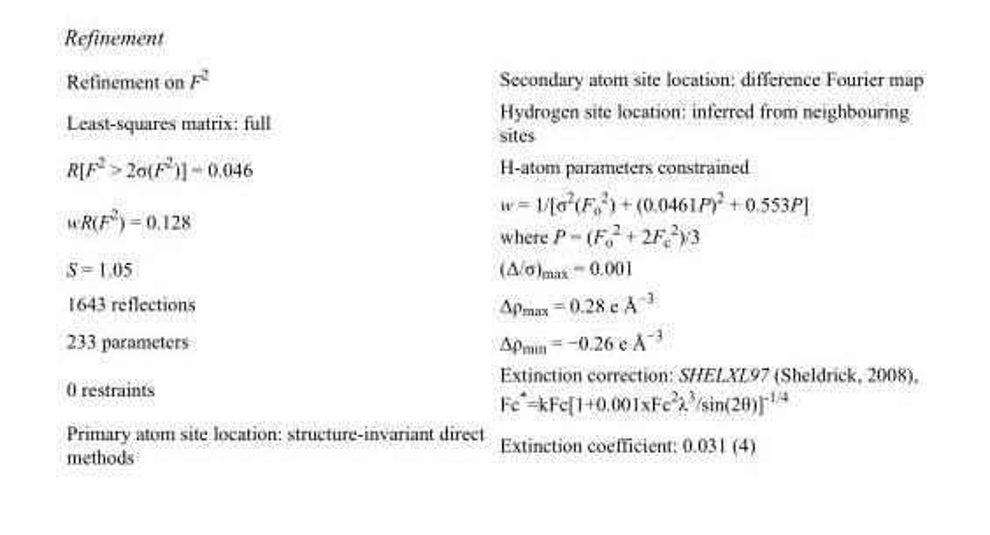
<table><tbody><tr><td>Refinement on F<sup>2</sup></td><td>Secondary atom site location: difference Fourier map</td></tr><tr><td>Least-squares matrix: full</td><td>Hydrogen site location: inferred from neighbouring sites</td></tr><tr><td>R[F<sup>2</sup> &gt; 2σ(F<sup>2</sup>)] = 0.046</td><td>H-atom parameters constrained</td></tr><tr><td>wR(F<sup>2</sup>) = 0.128</td><td>w = 1/[σ<sup>2</sup>(F<sub>o</sub> <sup>2</sup>) + (0.0461P)<sup>2</sup> + 0.553P] where P = (F<sub>o</sub> <sup>2</sup> + 2F<sub>c</sub> <sup>2</sup>)/3</td></tr><tr><td>S = 1.05</td><td>(Δ/σ)<sub>max</sub> = 0.001</td></tr><tr><td>1643 reflections</td><td>Δρ<sub>max</sub> = 0.28 e Å<sup>−3</sup></td></tr><tr><td>233 parameters</td><td>Δρ<sub>min</sub> = −0.26 e Å<sup>−3</sup></td></tr><tr><td>0 restraints</td><td>Extinction correction: SHELXL97 (Sheldrick, 2008), Fc*=kFc[1+0.001xFc<sup>2</sup>λ<sup>3</sup>/sin(2θ)]<sup>-1/4</sup></td></tr><tr><td>Primary atom site location: structure-invariant direct methods</td><td>Extinction coefficient: 0.031 (4)</td></tr></tbody></table>